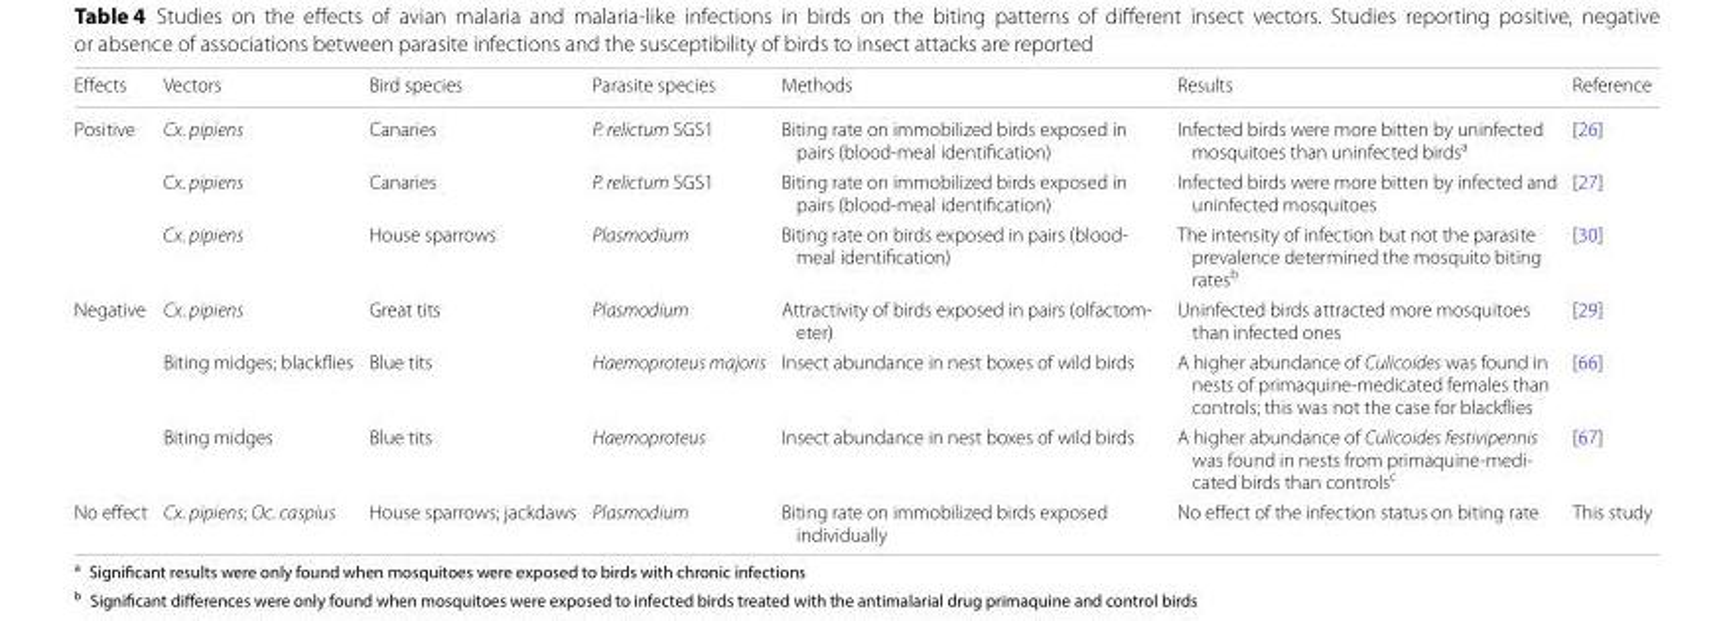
<table><thead><tr><td>Effects</td><td>Vectors</td><td>Bird species</td><td>Parasite species</td><td>Methods</td><td>Results</td><td>Reference</td></tr></thead><tbody><tr><td rowspan="3">Positive</td><td>Cx. pipiens</td><td>Canaries</td><td>P. relictum SGS1</td><td>Biting rate on immobilized birds exposed in pairs (blood‑meal identification)</td><td>Infected birds were more bitten by uninfected mosquitoes than uninfected birds<sup>a</sup></td><td>[26]</td></tr><tr><td>Cx. pipiens</td><td>Canaries</td><td>P. relictum SGS1</td><td>Biting rate on immobilized birds exposed in pairs (blood‑meal identification)</td><td>Infected birds were more bitten by infected and uninfected mosquitoes</td><td>[27]</td></tr><tr><td>Cx. pipiens</td><td>House sparrows</td><td>Plasmodium</td><td>Biting rate on birds exposed in pairs (blood‑ meal identification)</td><td>The intensity of infection but not the parasite prevalence determined the mosquito biting rates<sup>b</sup></td><td>[30]</td></tr><tr><td rowspan="3">Negative</td><td>Cx. pipiens</td><td>Great tits</td><td>Plasmodium</td><td>Attractivity of birds exposed in pairs (olfactom‑ eter)</td><td>Uninfected birds attracted more mosquitoes than infected ones</td><td>[29]</td></tr><tr><td>Biting midges; blackflies</td><td>Blue tits</td><td>Haemoproteus majoris</td><td>Insect abundance in nest boxes of wild birds</td><td>A higher abundance of Culicoides was found in nests of primaquine‑medicated females than controls; this was not the case for blackflies</td><td>[66]</td></tr><tr><td>Biting midges</td><td>Blue tits</td><td>Haemoproteus</td><td>Insect abundance in nest boxes of wild birds</td><td>A higher abundance of Culicoides festivipennis was found in nests from primaquine‑medi‑ cated birds than controlsc</td><td>[67]</td></tr><tr><td>No effect</td><td>Cx. pipiens; Oc. caspius</td><td>House sparrows; jackdaws</td><td>Plasmodium</td><td>Biting rate on immobilized birds exposed individually</td><td>No effect of the infection status on biting rate</td><td>This study</td></tr></tbody></table>